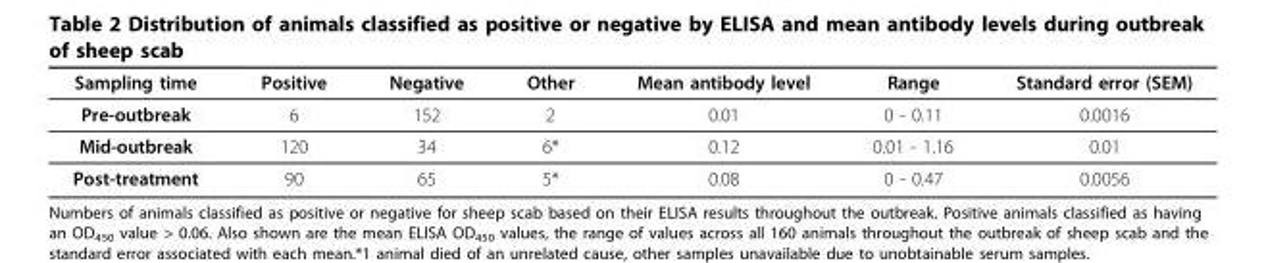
<table><thead><tr><td>Sampling time</td><td>Positive</td><td>Negative</td><td>Other</td><td>Mean antibody level</td><td>Range</td><td>Standard error (SEM)</td></tr></thead><tbody><tr><td>Pre-outbreak</td><td>6</td><td>152</td><td>2</td><td>0.01</td><td>0 - 0.11</td><td>0.0016</td></tr><tr><td>Mid-outbreak</td><td>120</td><td>34</td><td>6*</td><td>0.12</td><td>0.01 - 1.16</td><td>0.01</td></tr><tr><td>Post-treatment</td><td>90</td><td>65</td><td>5*</td><td>0.08</td><td>0 - 0.47</td><td>0.0056</td></tr></tbody></table>